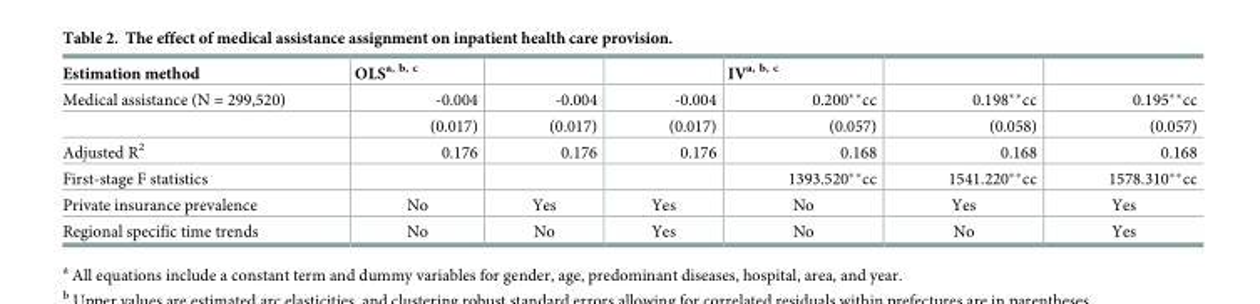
<table><thead><tr><td>Estimation method</td><td>OLS<sup>a, b, c</sup></td><td></td><td></td><td>IV<sup>a, b, c</sup></td><td></td><td></td></tr></thead><tbody><tr><td rowspan="2">Medical assistance (N = 299,520)</td><td>-0.004</td><td>-0.004</td><td>-0.004</td><td>0.200**<sup>cc</sup></td><td>0.198**<sup>cc</sup></td><td>0.195**<sup>cc</sup></td></tr><tr><td>(0.017)</td><td>(0.017)</td><td>(0.017)</td><td>(0.057)</td><td>(0.058)</td><td>(0.057)</td></tr><tr><td>Adjusted R<sup>2</sup></td><td>0.176</td><td>0.176</td><td>0.176</td><td>0.168</td><td>0.168</td><td>0.168</td></tr><tr><td>First-stage F statistics</td><td></td><td></td><td></td><td>1393.520**<sup>cc</sup></td><td>1541.220**<sup>cc</sup></td><td>1578.310**<sup>cc</sup></td></tr><tr><td>Private insurance prevalence</td><td>No</td><td>Yes</td><td>Yes</td><td>No</td><td>Yes</td><td>Yes</td></tr><tr><td>Regional specific time trends</td><td>No</td><td>No</td><td>Yes</td><td>No</td><td>No</td><td>Yes</td></tr></tbody></table>